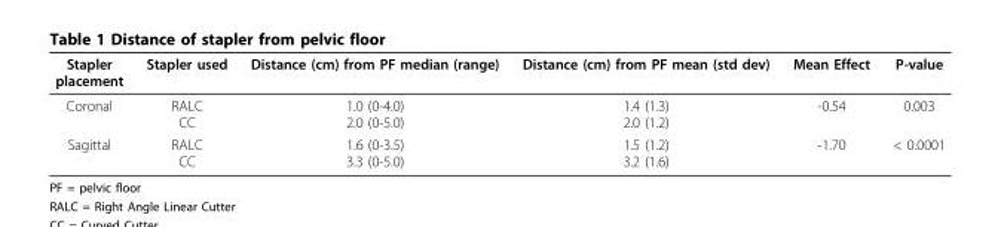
<table><thead><tr><td>Stapler placement</td><td>Stapler used</td><td>Distance (cm) from PF median (range)</td><td>Distance (cm) from PF mean (std dev)</td><td>Mean Effect</td><td>P-value</td></tr></thead><tbody><tr><td>Coronal</td><td>RALC CC</td><td>1.0 (0-4.0) 2.0 (0-5.0)</td><td>1.4 (1.3) 2.0 (1.2)</td><td>-0.54</td><td>0.003</td></tr><tr><td>Sagittal</td><td>RALC CC</td><td>1.6 (0-3.5) 3.3 (0-5.0)</td><td>1.5 (1.2) 3.2 (1.6)</td><td>-1.70</td><td>&lt; 0.0001</td></tr></tbody></table>